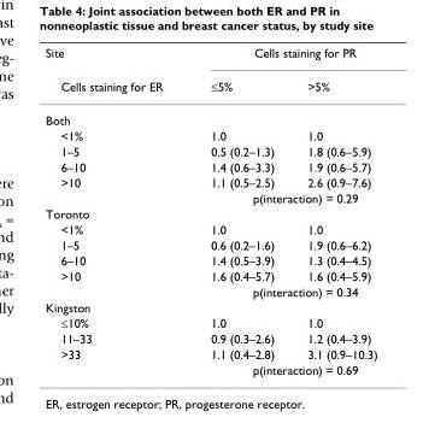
<table><thead><tr><td rowspan="2">Site Cells staining for ER</td><td colspan="2">Cells staining for PR</td></tr><tr><td>≤5%</td><td>&gt;5%</td></tr></thead><tbody><tr><td colspan="3">Both</td></tr><tr><td>&lt;1%</td><td>1.0</td><td>1.0</td></tr><tr><td>1–5</td><td>0.5 (0.2–1.3)</td><td>1.8 (0.6–5.9)</td></tr><tr><td>6–10</td><td>1.4 (0.6–3.3)</td><td>1.9 (0.6–5.7)</td></tr><tr><td rowspan="2">&gt;10</td><td>1.1 (0.5–2.5)</td><td>2.6 (0.9–7.6)</td></tr><tr><td colspan="2">p(interaction) = 0.29</td></tr><tr><td colspan="3">Toronto</td></tr><tr><td>&lt;1%</td><td>1.0</td><td>1.0</td></tr><tr><td>1–5</td><td>0.6 (0.2–1.6)</td><td>1.9 (0.6–6.2)</td></tr><tr><td>6–10</td><td>1.4 (0.5–3.9)</td><td>1.3 (0.4–4.5)</td></tr><tr><td rowspan="2">&gt;10</td><td>1.6 (0.4–5.7)</td><td>1.6 (0.4–5.9)</td></tr><tr><td colspan="2">p(interaction) = 0.34</td></tr><tr><td colspan="3">Kingston</td></tr><tr><td>≤10%</td><td>1.0</td><td>1.0</td></tr><tr><td>11–33</td><td>0.9 (0.3–2.6)</td><td>1.2 (0.4–3.9)</td></tr><tr><td rowspan="2">&gt;33</td><td>1.1 (0.4–2.8)</td><td>3.1 (0.9–10.3)</td></tr><tr><td colspan="2">p(interaction) = 0.69</td></tr></tbody></table>